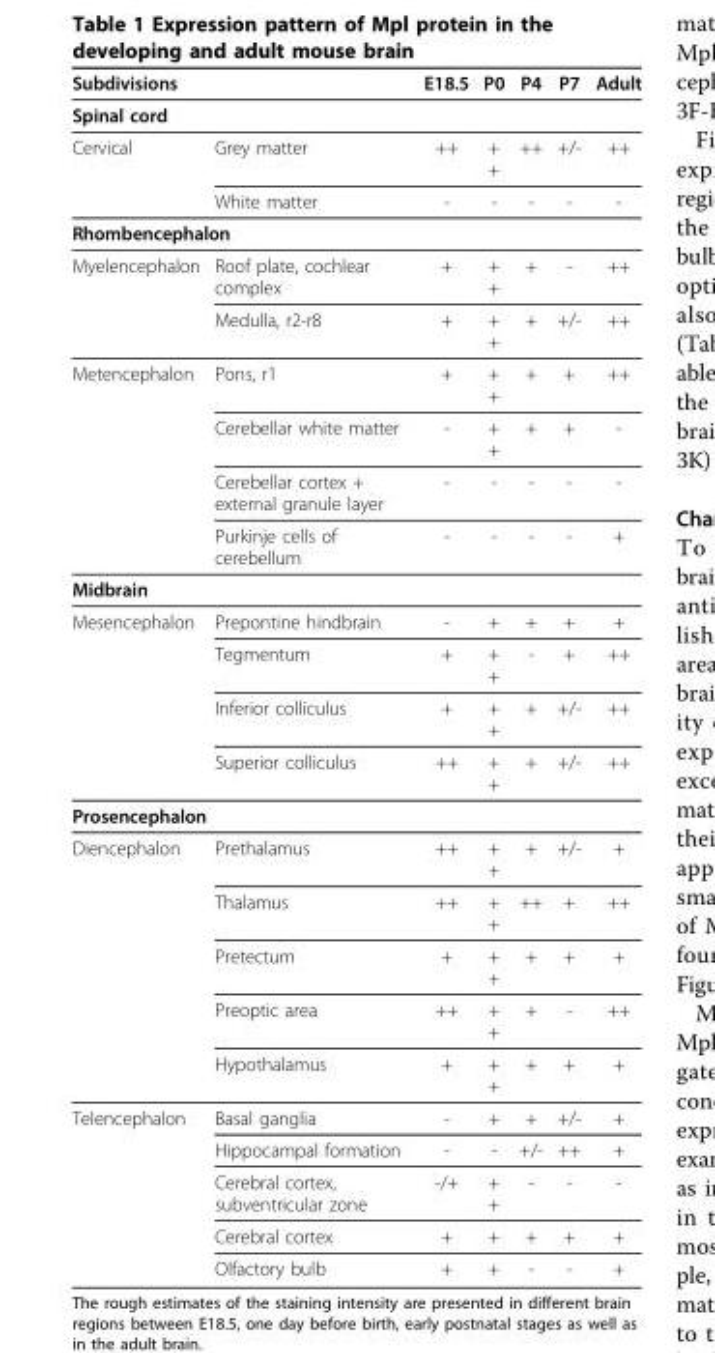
<table><thead><tr><td rowspan="2" colspan="2">Subdivisions Spinal cord</td><td rowspan="3">E18.5 ++</td><td rowspan="3">P0 + +</td><td rowspan="3">P4 ++</td><td rowspan="3">P7 +/-</td><td rowspan="3">Adult ++</td></tr><tr></tr><tr><td>Cervical</td><td>Grey matter</td></tr></thead><tbody><tr><td></td><td>White matter</td><td>-</td><td>-</td><td>-</td><td>-</td><td>-</td></tr><tr><td colspan="7">Rhombencephalon</td></tr><tr><td rowspan="2">Myelencephalon</td><td>Roof plate, cochlear complex</td><td>+</td><td>+ +</td><td>+</td><td>-</td><td>++</td></tr><tr><td>Medulla, r2-r8</td><td>+</td><td>+ +</td><td>+</td><td>+/-</td><td>++</td></tr><tr><td rowspan="4">Metencephalon</td><td>Pons, r1</td><td>+</td><td>+ +</td><td>+</td><td>+</td><td>++</td></tr><tr><td>Cerebellar white matter</td><td>-</td><td>+ +</td><td>+</td><td>+</td><td>-</td></tr><tr><td>Cerebellar cortex + external granule layer</td><td>-</td><td>-</td><td>-</td><td>-</td><td>-</td></tr><tr><td>Purkinje cells of cerebellum</td><td>-</td><td>-</td><td>-</td><td>-</td><td>+</td></tr><tr><td colspan="7">Midbrain</td></tr><tr><td rowspan="4">Mesencephalon</td><td>Prepontine hindbrain</td><td>-</td><td>+</td><td>+</td><td>+</td><td>+</td></tr><tr><td>Tegmentum</td><td>+</td><td>+ +</td><td>-</td><td>+</td><td>++</td></tr><tr><td>Inferior colliculus</td><td>+</td><td>+ +</td><td>+</td><td>+/-</td><td>++</td></tr><tr><td>Superior colliculus</td><td>++</td><td>+ +</td><td>+</td><td>+/-</td><td>++</td></tr><tr><td colspan="7">Prosencephalon</td></tr><tr><td rowspan="5">Diencephalon</td><td>Prethalamus</td><td>++</td><td>+ +</td><td>+</td><td>+/-</td><td>+</td></tr><tr><td>Thalamus</td><td>++</td><td>+ +</td><td>++</td><td>+</td><td>++</td></tr><tr><td>Pretectum</td><td>+</td><td>+ +</td><td>+</td><td>+</td><td>+</td></tr><tr><td>Preoptic area</td><td>++</td><td>+ +</td><td>+</td><td>-</td><td>++</td></tr><tr><td>Hypothalamus</td><td>+</td><td>+ +</td><td>+</td><td>+</td><td>+</td></tr><tr><td rowspan="5">Telencephalon</td><td>Basal ganglia</td><td>-</td><td>+</td><td>+</td><td>+/-</td><td>+</td></tr><tr><td>Hippocampal formation</td><td>-</td><td>-</td><td>+/-</td><td>++</td><td>+</td></tr><tr><td>Cerebral cortex, subventricular zone</td><td>-/+</td><td>+ +</td><td>-</td><td>-</td><td>-</td></tr><tr><td>Cerebral cortex</td><td>+</td><td>+</td><td>+</td><td>+</td><td>+</td></tr><tr><td>Olfactory bulb</td><td>+</td><td>+</td><td>-</td><td>-</td><td>+</td></tr></tbody></table>